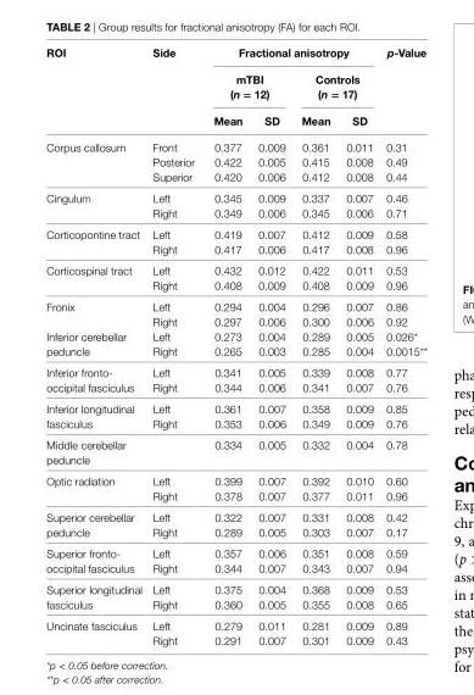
<table><thead><tr><td rowspan="3">rOi</td><td rowspan="3">side</td><td colspan="4">Fractional anisotropy</td><td rowspan="3">p-Value</td></tr><tr><td colspan="2">mTBi (n = 12)</td><td colspan="2">controls (n = 17)</td></tr><tr><td>Mean</td><td>sD</td><td>Mean</td><td>sD</td></tr></thead><tbody><tr><td rowspan="3">Corpus callosum</td><td>Front</td><td>0.377</td><td>0.009</td><td>0.361</td><td>0.011</td><td>0.31</td></tr><tr><td>Posterior</td><td>0.422</td><td>0.005</td><td>0.415</td><td>0.008</td><td>0.49</td></tr><tr><td>Superior</td><td>0.420</td><td>0.006</td><td>0.412</td><td>0.008</td><td>0.44</td></tr><tr><td rowspan="2">Cingulum</td><td>Left</td><td>0.345</td><td>0.009</td><td>0.337</td><td>0.007</td><td>0.46</td></tr><tr><td>Right</td><td>0.349</td><td>0.006</td><td>0.345</td><td>0.006</td><td>0.71</td></tr><tr><td rowspan="2">Corticopontine tract</td><td>Left</td><td>0.419</td><td>0.007</td><td>0.412</td><td>0.009</td><td>0.58</td></tr><tr><td>Right</td><td>0.417</td><td>0.006</td><td>0.417</td><td>0.008</td><td>0.96</td></tr><tr><td rowspan="2">Corticospinal tract</td><td>Left</td><td>0.432</td><td>0.012</td><td>0.422</td><td>0.011</td><td>0.53</td></tr><tr><td>Right</td><td>0.408</td><td>0.009</td><td>0.408</td><td>0.009</td><td>0.96</td></tr><tr><td rowspan="2">Fronix</td><td>Left</td><td>0.294</td><td>0.004</td><td>0.296</td><td>0.007</td><td>0.86</td></tr><tr><td>Right</td><td>0.297</td><td>0.006</td><td>0.300</td><td>0.006</td><td>0.92</td></tr><tr><td rowspan="2">Inferior cerebellar peduncle</td><td>Left</td><td>0.273</td><td>0.004</td><td>0.289</td><td>0.005</td><td>0.026*</td></tr><tr><td>Right</td><td>0.265</td><td>0.003</td><td>0.285</td><td>0.004</td><td>0.0015**</td></tr><tr><td rowspan="2">Inferior fronto- occipital fasciculus</td><td>Left</td><td>0.341</td><td>0.005</td><td>0.339</td><td>0.008</td><td>0.77</td></tr><tr><td>Right</td><td>0.344</td><td>0.006</td><td>0.341</td><td>0.007</td><td>0.76</td></tr><tr><td rowspan="2">Inferior longitudinal fasciculus</td><td>Left</td><td>0.361</td><td>0.007</td><td>0.358</td><td>0.009</td><td>0.85</td></tr><tr><td>Right</td><td>0.353</td><td>0.006</td><td>0.349</td><td>0.009</td><td>0.76</td></tr><tr><td>Middle cerebellar peduncle</td><td></td><td>0.334</td><td>0.005</td><td>0.332</td><td>0.004</td><td>0.78</td></tr><tr><td rowspan="2">Optic radiation</td><td>Left</td><td>0.399</td><td>0.007</td><td>0.392</td><td>0.010</td><td>0.60</td></tr><tr><td>Right</td><td>0.378</td><td>0.007</td><td>0.377</td><td>0.011</td><td>0.96</td></tr><tr><td rowspan="2">Superior cerebellar peduncle</td><td>Left</td><td>0.322</td><td>0.007</td><td>0.331</td><td>0.008</td><td>0.42</td></tr><tr><td>Right</td><td>0.289</td><td>0.005</td><td>0.303</td><td>0.007</td><td>0.17</td></tr><tr><td rowspan="2">Superior fronto- occipital fasciculus</td><td>Left</td><td>0.357</td><td>0.006</td><td>0.351</td><td>0.008</td><td>0.59</td></tr><tr><td>Right</td><td>0.344</td><td>0.007</td><td>0.343</td><td>0.007</td><td>0.94</td></tr><tr><td rowspan="2">Superior longitudinal fasciculus</td><td>Left</td><td>0.375</td><td>0.004</td><td>0.368</td><td>0.009</td><td>0.53</td></tr><tr><td>Right</td><td>0.360</td><td>0.005</td><td>0.355</td><td>0.008</td><td>0.65</td></tr><tr><td rowspan="2">Uncinate fasciculus</td><td>Left</td><td>0.279</td><td>0.011</td><td>0.281</td><td>0.009</td><td>0.89</td></tr><tr><td>Right</td><td>0.291</td><td>0.007</td><td>0.301</td><td>0.009</td><td>0.43</td></tr></tbody></table>